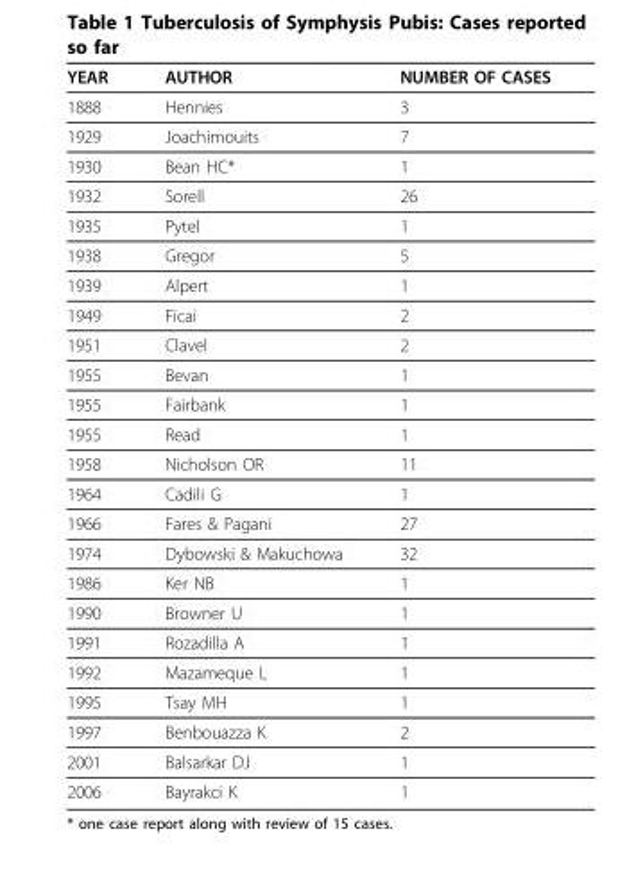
<table><thead><tr><td>YEAR</td><td>AUTHOR</td><td>NUMBER OF CASES</td></tr></thead><tbody><tr><td>1888</td><td>Hennies</td><td>3</td></tr><tr><td>1929</td><td>Joachimouits</td><td>7</td></tr><tr><td>1930</td><td>Bean HC*</td><td>1</td></tr><tr><td>1932</td><td>Sorell</td><td>26</td></tr><tr><td>1935</td><td>Pytel</td><td>1</td></tr><tr><td>1938</td><td>Gregor</td><td>5</td></tr><tr><td>1939</td><td>Alpert</td><td>1</td></tr><tr><td>1949</td><td>Ficai</td><td>2</td></tr><tr><td>1951</td><td>Clavel</td><td>2</td></tr><tr><td>1955</td><td>Bevan</td><td>1</td></tr><tr><td>1955</td><td>Fairbank</td><td>1</td></tr><tr><td>1955</td><td>Read</td><td>1</td></tr><tr><td>1958</td><td>Nicholson OR</td><td>11</td></tr><tr><td>1964</td><td>Cadili G</td><td>1</td></tr><tr><td>1966</td><td>Fares &amp; Pagani</td><td>27</td></tr><tr><td>1974</td><td>Dybowski &amp; Makuchowa</td><td>32</td></tr><tr><td>1986</td><td>Ker NB</td><td>1</td></tr><tr><td>1990</td><td>Browner U</td><td>1</td></tr><tr><td>1991</td><td>Rozadilla A</td><td>1</td></tr><tr><td>1992</td><td>Mazameque L</td><td>1</td></tr><tr><td>1995</td><td>Tsay MH</td><td>1</td></tr><tr><td>1997</td><td>Benbouazza K</td><td>2</td></tr><tr><td>2001</td><td>Balsarkar DJ</td><td>1</td></tr><tr><td>2006</td><td>Bayrakci K</td><td>1</td></tr></tbody></table>